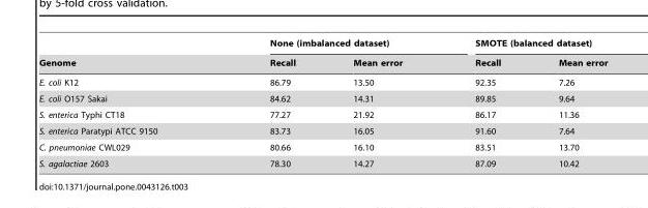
<table><thead><tr><td rowspan="2">Genome</td><td colspan="2">None (imbalanced dataset)</td><td colspan="2">SMOTE (balanced dataset)</td></tr><tr><td>Recall</td><td>Mean error</td><td>Recall</td><td>Mean error</td></tr></thead><tbody><tr><td>E. coli K12</td><td>86.79</td><td>13.50</td><td>92.35</td><td>7.26</td></tr><tr><td>E. coli O157 Sakai</td><td>84.62</td><td>14.31</td><td>89.85</td><td>9.64</td></tr><tr><td>S. enterica Typhi CT18</td><td>77.27</td><td>21.92</td><td>86.17</td><td>11.36</td></tr><tr><td>S. enterica Paratypi ATCC 9150</td><td>83.73</td><td>16.05</td><td>91.60</td><td>7.64</td></tr><tr><td>C. pneumoniae CWL029</td><td>80.66</td><td>16.10</td><td>83.51</td><td>13.70</td></tr><tr><td>S. agalactiae 2603</td><td>78.30</td><td>14.27</td><td>87.09</td><td>10.42</td></tr></tbody></table>